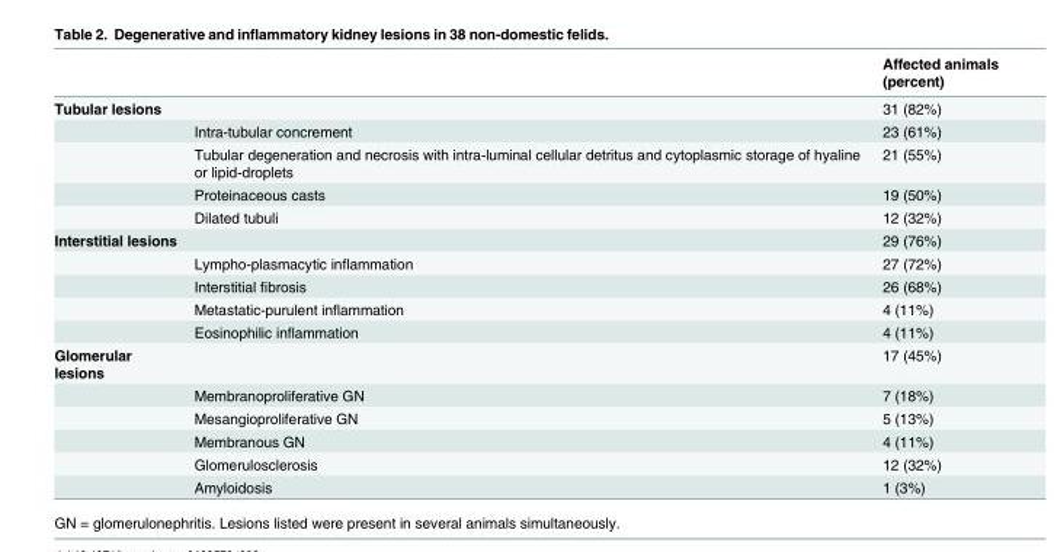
<table><thead><tr><td></td><td></td><td>Affected animals (percent)</td></tr></thead><tbody><tr><td rowspan="5">Tubular lesions</td><td></td><td>31 (82%)</td></tr><tr><td>Intra-tubular concrement</td><td>23 (61%)</td></tr><tr><td>Tubular degeneration and necrosis with intra-luminal cellular detritus and cytoplasmic storage of hyaline or lipid-droplets</td><td>21 (55%)</td></tr><tr><td>Proteinaceous casts</td><td>19 (50%)</td></tr><tr><td>Dilated tubuli</td><td>12 (32%)</td></tr><tr><td rowspan="5">Interstitial lesions</td><td></td><td>29 (76%)</td></tr><tr><td>Lympho-plasmacytic inflammation</td><td>27 (72%)</td></tr><tr><td>Interstitial fibrosis</td><td>26 (68%)</td></tr><tr><td>Metastatic-purulent inflammation</td><td>4 (11%)</td></tr><tr><td>Eosinophilic inflammation</td><td>4 (11%)</td></tr><tr><td rowspan="6">Glomerular lesions</td><td></td><td>17 (45%)</td></tr><tr><td>Membranoproliferative GN</td><td>7 (18%)</td></tr><tr><td>Mesangioproliferative GN</td><td>5 (13%)</td></tr><tr><td>Membranous GN</td><td>4 (11%)</td></tr><tr><td>Glomerulosclerosis</td><td>12 (32%)</td></tr><tr><td>Amyloidosis</td><td>1 (3%)</td></tr></tbody></table>